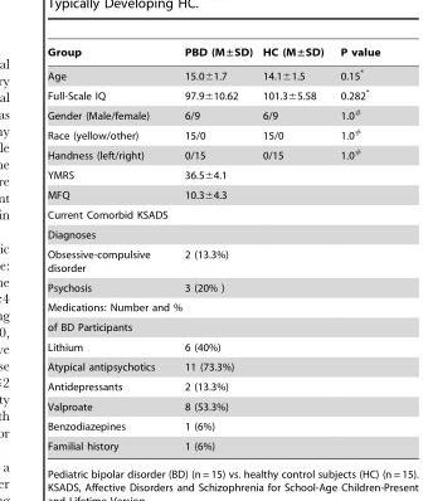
<table><thead><tr><td>Group</td><td>PBD (M±SD)</td><td>HC (M±SD)</td><td>P value</td></tr></thead><tbody><tr><td>Age</td><td>15.0±1.7</td><td>14.1±1.5</td><td>0.15*</td></tr><tr><td>Full-Scale IQ</td><td>97.9±10.62</td><td>101.3±5.58</td><td>0.282*</td></tr><tr><td>Gender (Male/female)</td><td>6/9</td><td>6/9</td><td>1.0#</td></tr><tr><td>Race (yellow/other)</td><td>15/0</td><td>15/0</td><td>1.0#</td></tr><tr><td>Handness (left/right)</td><td>0/15</td><td>0/15</td><td>1.0#</td></tr><tr><td>YMRS</td><td>36.5±4.1</td><td></td><td></td></tr><tr><td>MFQ</td><td>10.3±4.3</td><td></td><td></td></tr><tr><td colspan="4">Current Comorbid KSADS</td></tr><tr><td colspan="4">Diagnoses</td></tr><tr><td>Obsessive-compulsive disorder</td><td>2 (13.3%)</td><td></td><td></td></tr><tr><td>Psychosis</td><td>3 (20% )</td><td></td><td></td></tr><tr><td colspan="4">Medications: Number and %</td></tr><tr><td colspan="4">of BD Participants</td></tr><tr><td>Lithium</td><td>6 (40%)</td><td></td><td></td></tr><tr><td>Atypical antipsychotics</td><td>11 (73.3%)</td><td></td><td></td></tr><tr><td>Antidepressants</td><td>2 (13.3%)</td><td></td><td></td></tr><tr><td>Valproate</td><td>8 (53.3%)</td><td></td><td></td></tr><tr><td>Benzodiazepines</td><td>1 (6%)</td><td></td><td></td></tr><tr><td>Familial history</td><td>1 (6%)</td><td></td><td></td></tr></tbody></table>